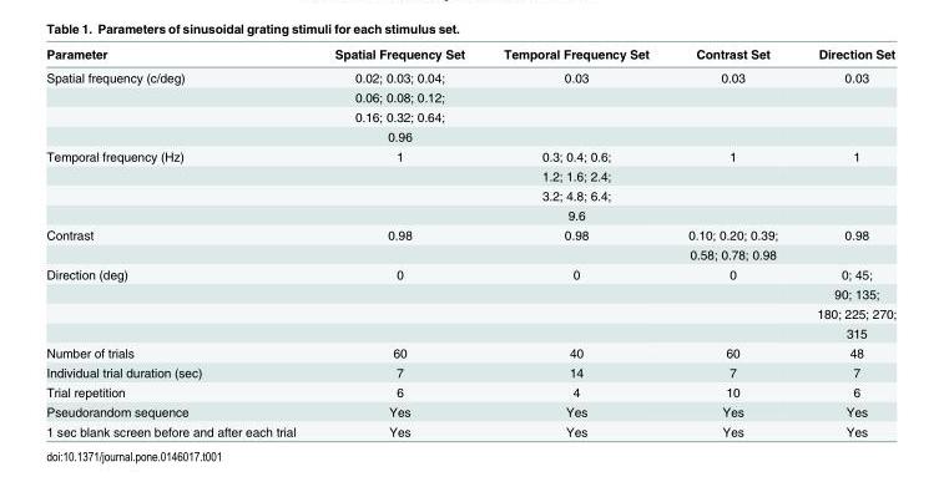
<table><thead><tr><td>Parameter</td><td>Spatial Frequency Set</td><td>Temporal Frequency Set</td><td>Contrast Set</td><td>Direction Set</td></tr></thead><tbody><tr><td rowspan="4">Spatial frequency (c/deg)</td><td>0.02; 0.03; 0.04;</td><td>0.03</td><td>0.03</td><td>0.03</td></tr><tr><td>0.06; 0.08; 0.12;</td><td></td><td></td><td></td></tr><tr><td>0.16; 0.32; 0.64;</td><td></td><td></td><td></td></tr><tr><td>0.96</td><td></td><td></td><td></td></tr><tr><td rowspan="4">Temporal frequency (Hz)</td><td>1</td><td>0.3; 0.4; 0.6;</td><td>1</td><td>1</td></tr><tr><td></td><td>1.2; 1.6; 2.4;</td><td></td><td></td></tr><tr><td></td><td>3.2; 4.8; 6.4;</td><td></td><td></td></tr><tr><td></td><td>9.6</td><td></td><td></td></tr><tr><td rowspan="2">Contrast</td><td>0.98</td><td>0.98</td><td>0.10; 0.20; 0.39;</td><td>0.98</td></tr><tr><td></td><td></td><td>0.58; 0.78; 0.98</td><td></td></tr><tr><td rowspan="4">Direction (deg)</td><td>0</td><td>0</td><td>0</td><td>0; 45;</td></tr><tr><td></td><td></td><td></td><td>90; 135;</td></tr><tr><td></td><td></td><td></td><td>180; 225; 270;</td></tr><tr><td></td><td></td><td></td><td>315</td></tr><tr><td>Number of trials</td><td>60</td><td>40</td><td>60</td><td>48</td></tr><tr><td>Individual trial duration (sec)</td><td>7</td><td>14</td><td>7</td><td>7</td></tr><tr><td>Trial repetition</td><td>6</td><td>4</td><td>10</td><td>6</td></tr><tr><td>Pseudorandom sequence</td><td>Yes</td><td>Yes</td><td>Yes</td><td>Yes</td></tr><tr><td>1 sec blank screen before and after each trial</td><td>Yes</td><td>Yes</td><td>Yes</td><td>Yes</td></tr></tbody></table>